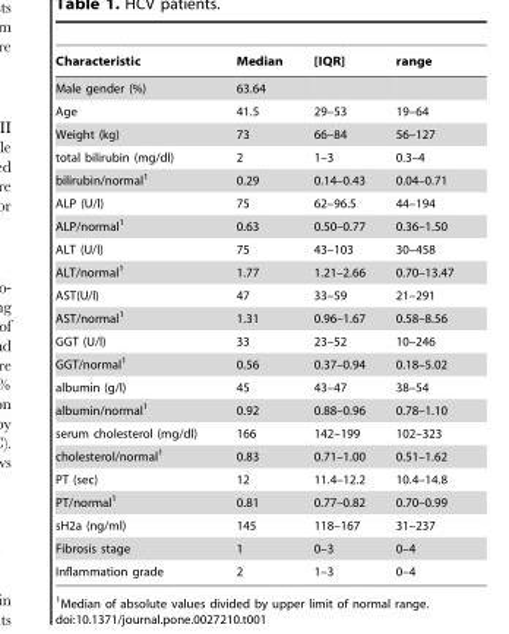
<table><thead><tr><td>Characteristic</td><td>Median</td><td>[IQR]</td><td>range</td></tr></thead><tbody><tr><td>Male gender (%)</td><td>63.64</td><td></td><td></td></tr><tr><td>Age</td><td>41.5</td><td>29–53</td><td>19–64</td></tr><tr><td>Weight (kg)</td><td>73</td><td>66–84</td><td>56–127</td></tr><tr><td>total bilirubin (mg/dl)</td><td>2</td><td>1–3</td><td>0.3–4</td></tr><tr><td>bilirubin/normal<sup>1</sup></td><td>0.29</td><td>0.14–0.43</td><td>0.04–0.71</td></tr><tr><td>ALP (U/l)</td><td>75</td><td>62–96.5</td><td>44–194</td></tr><tr><td>ALP/normal<sup>1</sup></td><td>0.63</td><td>0.50–0.77</td><td>0.36–1.50</td></tr><tr><td>ALT (U/l)</td><td>75</td><td>43–103</td><td>30–458</td></tr><tr><td>ALT/normal<sup>1</sup></td><td>1.77</td><td>1.21–2.66</td><td>0.70–13.47</td></tr><tr><td>AST(U/l)</td><td>47</td><td>33–59</td><td>21–291</td></tr><tr><td>AST/normal<sup>1</sup></td><td>1.31</td><td>0.96–1.67</td><td>0.58–8.56</td></tr><tr><td>GGT (U/l)</td><td>33</td><td>23–52</td><td>10–246</td></tr><tr><td>GGT/normal<sup>1</sup></td><td>0.56</td><td>0.37–0.94</td><td>0.18–5.02</td></tr><tr><td>albumin (g/l)</td><td>45</td><td>43–47</td><td>38–54</td></tr><tr><td>albumin/normal<sup>1</sup></td><td>0.92</td><td>0.88–0.96</td><td>0.78–1.10</td></tr><tr><td>serum cholesterol (mg/dl)</td><td>166</td><td>142–199</td><td>102–323</td></tr><tr><td>cholesterol/normal<sup>1</sup></td><td>0.83</td><td>0.71–1.00</td><td>0.51–1.62</td></tr><tr><td>PT (sec)</td><td>12</td><td>11.4–12.2</td><td>10.4–14.8</td></tr><tr><td>PT/normal<sup>1</sup></td><td>0.81</td><td>0.77–0.82</td><td>0.70–0.99</td></tr><tr><td>sH2a (ng/ml)</td><td>145</td><td>118–167</td><td>31–237</td></tr><tr><td>Fibrosis stage</td><td>1</td><td>0–3</td><td>0–4</td></tr><tr><td>Inflammation grade</td><td>2</td><td>1–3</td><td>0–4</td></tr></tbody></table>